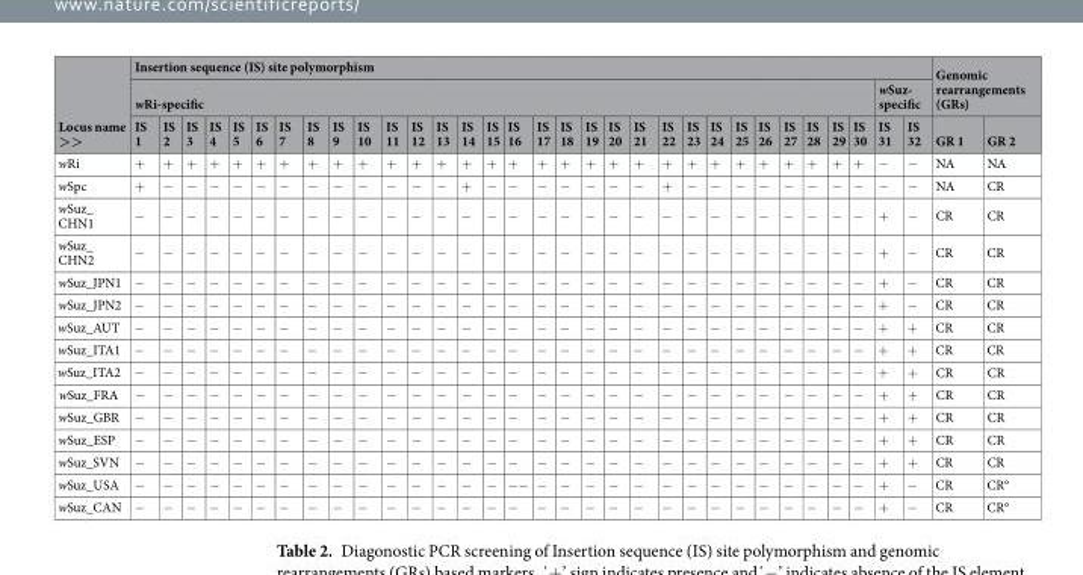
<table><thead><tr><td rowspan="3">Locus name &gt;&gt;</td><td colspan="32">Insertion sequence (IS) site polymorphism</td><td rowspan="2" colspan="2">Genomic rearrangements (GRs)</td></tr><tr><td colspan="30">wRi-specific</td><td colspan="2">wSuz- specific</td></tr><tr><td>IS 1</td><td>IS 2</td><td>IS 3</td><td>IS 4</td><td>IS 5</td><td>IS 6</td><td>IS 7</td><td>IS 8</td><td>IS 9</td><td>IS 10</td><td>IS 11</td><td>IS 12</td><td>IS 13</td><td>IS 14</td><td>IS 15</td><td>IS 16</td><td>IS 17</td><td>IS 18</td><td>IS 19</td><td>IS 20</td><td>IS 21</td><td>IS 22</td><td>IS 23</td><td>IS 24</td><td>IS 25</td><td>IS 26</td><td>IS 27</td><td>IS 28</td><td>IS 29</td><td>IS 30</td><td>IS 31</td><td>IS 32</td><td>GR 1</td><td>GR 2</td></tr></thead><tbody><tr><td>wRi</td><td>+</td><td>+</td><td>+</td><td>+</td><td>+</td><td>+</td><td>+</td><td>+</td><td>+</td><td>+</td><td>+</td><td>+</td><td>+</td><td>+</td><td>+</td><td>+</td><td>+</td><td>+</td><td>+</td><td>+</td><td>+</td><td>+</td><td>+</td><td>+</td><td>+</td><td>+</td><td>+</td><td>+</td><td>+</td><td>+</td><td>−</td><td>−</td><td>NA</td><td>NA</td></tr><tr><td>wSpc</td><td>+</td><td>−</td><td>−</td><td>−</td><td>−</td><td>−</td><td>−</td><td>−</td><td>−</td><td>−</td><td>−</td><td>−</td><td>−</td><td>+</td><td>−</td><td>−</td><td>−</td><td>−</td><td>−</td><td>−</td><td>−</td><td>+</td><td>−</td><td>−</td><td>−</td><td>−</td><td>−</td><td>−</td><td>−</td><td>−</td><td>−</td><td>−</td><td>NA</td><td>CR</td></tr><tr><td>wSuz_ CHN1</td><td>−</td><td>−</td><td>−</td><td>−</td><td>−</td><td>−</td><td>−</td><td>−</td><td>−</td><td>−</td><td>−</td><td>−</td><td>−</td><td>−</td><td>−</td><td>−</td><td>−</td><td>−</td><td>−</td><td>−</td><td>−</td><td>−</td><td>−</td><td>−</td><td>−</td><td>−</td><td>−</td><td>−</td><td>−</td><td>−</td><td>+</td><td>−</td><td>CR</td><td>CR</td></tr><tr><td>wSuz_ CHN2</td><td>−</td><td>−</td><td>−</td><td>−</td><td>−</td><td>−</td><td>−</td><td>−</td><td>−</td><td>−</td><td>−</td><td>−</td><td>−</td><td>−</td><td>−</td><td>−</td><td>−</td><td>−</td><td>−</td><td>−</td><td>−</td><td>−</td><td>−</td><td>−</td><td>−</td><td>−</td><td>−</td><td>−</td><td>−</td><td>−</td><td>+</td><td>−</td><td>CR</td><td>CR</td></tr><tr><td>wSuz_JPN1</td><td>−</td><td>−</td><td>−</td><td>−</td><td>−</td><td>−</td><td>−</td><td>−</td><td>−</td><td>−</td><td>−</td><td>−</td><td>−</td><td>−</td><td>−</td><td>−</td><td>−</td><td>−</td><td>−</td><td>−</td><td>−</td><td>−</td><td>−</td><td>−</td><td>−</td><td>−</td><td>−</td><td>−</td><td>−</td><td>−</td><td>+</td><td>−</td><td>CR</td><td>CR</td></tr><tr><td>wSuz_JPN2</td><td>−</td><td>−</td><td>−</td><td>−</td><td>−</td><td>−</td><td>−</td><td>−</td><td>−</td><td>−</td><td>−</td><td>−</td><td>−</td><td>−</td><td>−</td><td>−</td><td>−</td><td>−</td><td>−</td><td>−</td><td>−</td><td>−</td><td>−</td><td>−</td><td>−</td><td>−</td><td>−</td><td>−</td><td>−</td><td>−</td><td>+</td><td>−</td><td>CR</td><td>CR</td></tr><tr><td>wSuz_AUT</td><td>−</td><td>−</td><td>−</td><td>−</td><td>−</td><td>−</td><td>−</td><td>−</td><td>−</td><td>−</td><td>−</td><td>−</td><td>−</td><td>−</td><td>−</td><td>−</td><td>−</td><td>−</td><td>−</td><td>−</td><td>−</td><td>−</td><td>−</td><td>−</td><td>−</td><td>−</td><td>−</td><td>−</td><td>−</td><td>−</td><td>+</td><td>+</td><td>CR</td><td>CR</td></tr><tr><td>wSuz_ITA1</td><td>−</td><td>−</td><td>−</td><td>−</td><td>−</td><td>−</td><td>−</td><td>−</td><td>−</td><td>−</td><td>−</td><td>−</td><td>−</td><td>−</td><td>−</td><td>−</td><td>−</td><td>−</td><td>−</td><td>−</td><td>−</td><td>−</td><td>−</td><td>−</td><td>−</td><td>−</td><td>−</td><td>−</td><td>−</td><td>−</td><td>+</td><td>+</td><td>CR</td><td>CR</td></tr><tr><td>wSuz_ITA2</td><td>−</td><td>−</td><td>−</td><td>−</td><td>−</td><td>−</td><td>−</td><td>−</td><td>−</td><td>−</td><td>−</td><td>−</td><td>−</td><td>−</td><td>−</td><td>−</td><td>−</td><td>−</td><td>−</td><td>−</td><td>−</td><td>−</td><td>−</td><td>−</td><td>−</td><td>−</td><td>−</td><td>−</td><td>−</td><td>−</td><td>+</td><td>+</td><td>CR</td><td>CR</td></tr><tr><td>wSuz_FRA</td><td>−</td><td>−</td><td>−</td><td>−</td><td>−</td><td>−</td><td>−</td><td>−</td><td>−</td><td>−</td><td>−</td><td>−</td><td>−</td><td>−</td><td>−</td><td>−</td><td>−</td><td>−</td><td>−</td><td>−</td><td>−</td><td>−</td><td>−</td><td>−</td><td>−</td><td>−</td><td>−</td><td>−</td><td>−</td><td>−</td><td>+</td><td>+</td><td>CR</td><td>CR</td></tr><tr><td>wSuz_GBR</td><td>−</td><td>−</td><td>−</td><td>−</td><td>−</td><td>−</td><td>−</td><td>−</td><td>−</td><td>−</td><td>−</td><td>−</td><td>−</td><td>−</td><td>−</td><td>−</td><td>−</td><td>−</td><td>−</td><td>−</td><td>−</td><td>−</td><td>−</td><td>−</td><td>−</td><td>−</td><td>−</td><td>−</td><td>−</td><td>−</td><td>+</td><td>+</td><td>CR</td><td>CR</td></tr><tr><td>wSuz_ESP</td><td>−</td><td>−</td><td>−</td><td>−</td><td>−</td><td>−</td><td>−</td><td>−</td><td>−</td><td>−</td><td>−</td><td>−</td><td>−</td><td>−</td><td>−</td><td>−</td><td>−</td><td>−</td><td>−</td><td>−</td><td>−</td><td>−</td><td>−</td><td>−</td><td>−</td><td>−</td><td>−</td><td>−</td><td>−</td><td>−</td><td>+</td><td>+</td><td>CR</td><td>CR</td></tr><tr><td>wSuz_SVN</td><td>−</td><td>−</td><td>−</td><td>−</td><td>−</td><td>−</td><td>−</td><td>−</td><td>−</td><td>−</td><td>−</td><td>−</td><td>−</td><td>−</td><td>−</td><td>−</td><td>−</td><td>−</td><td>−</td><td>−</td><td>−</td><td>−</td><td>−</td><td>−</td><td>−</td><td>−</td><td>−</td><td>−</td><td>−</td><td>−</td><td>+</td><td>+</td><td>CR</td><td>CR</td></tr><tr><td>wSuz_USA</td><td>−</td><td>−</td><td>−</td><td>−</td><td>−</td><td>−</td><td>−</td><td>−</td><td>−</td><td>−</td><td>−</td><td>−</td><td>−</td><td>−</td><td>−</td><td>−−</td><td>−</td><td>−</td><td>−</td><td>−</td><td>−</td><td>−</td><td>−</td><td>−</td><td>−</td><td>−</td><td>−</td><td>−</td><td>−</td><td>−</td><td>+</td><td>−</td><td>CR</td><td>CR°</td></tr><tr><td>wSuz_CAN</td><td>−</td><td>−</td><td>−</td><td>−</td><td>−</td><td>−</td><td>−</td><td>−</td><td>−</td><td>−</td><td>−</td><td>−</td><td>−</td><td>−</td><td>−</td><td>−</td><td>−</td><td>−</td><td>−</td><td>−</td><td>−</td><td>−</td><td>−</td><td>−</td><td>−</td><td>−</td><td>−</td><td>−</td><td>−</td><td>−</td><td>+</td><td>−</td><td>CR</td><td>CR°</td></tr></tbody></table>